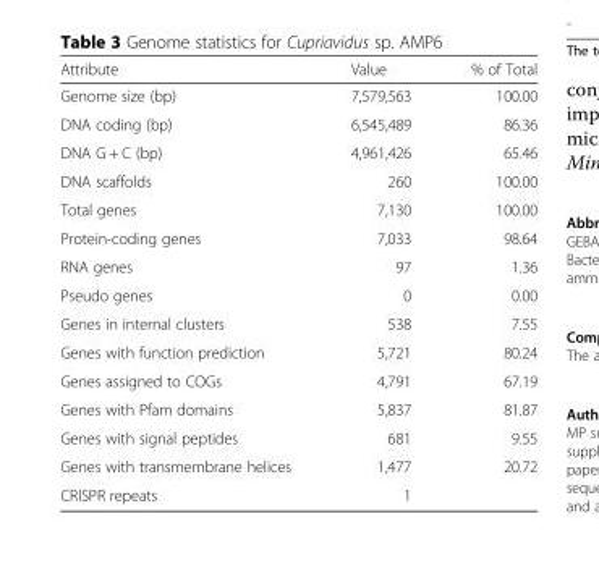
<table><thead><tr><td>Attribute</td><td>Value</td><td>% of Total</td></tr></thead><tbody><tr><td>Genome size (bp)</td><td>7,579,563</td><td>100.00</td></tr><tr><td>DNA coding (bp)</td><td>6,545,489</td><td>86.36</td></tr><tr><td>DNA G + C (bp)</td><td>4,961,426</td><td>65.46</td></tr><tr><td>DNA scaffolds</td><td>260</td><td>100.00</td></tr><tr><td>Total genes</td><td>7,130</td><td>100.00</td></tr><tr><td>Protein-coding genes</td><td>7,033</td><td>98.64</td></tr><tr><td>RNA genes</td><td>97</td><td>1.36</td></tr><tr><td>Pseudo genes</td><td>0</td><td>0.00</td></tr><tr><td>Genes in internal clusters</td><td>538</td><td>7.55</td></tr><tr><td>Genes with function prediction</td><td>5,721</td><td>80.24</td></tr><tr><td>Genes assigned to COGs</td><td>4,791</td><td>67.19</td></tr><tr><td>Genes with Pfam domains</td><td>5,837</td><td>81.87</td></tr><tr><td>Genes with signal peptides</td><td>681</td><td>9.55</td></tr><tr><td>Genes with transmembrane helices</td><td>1,477</td><td>20.72</td></tr><tr><td>CRISPR repeats</td><td>1</td><td></td></tr></tbody></table>